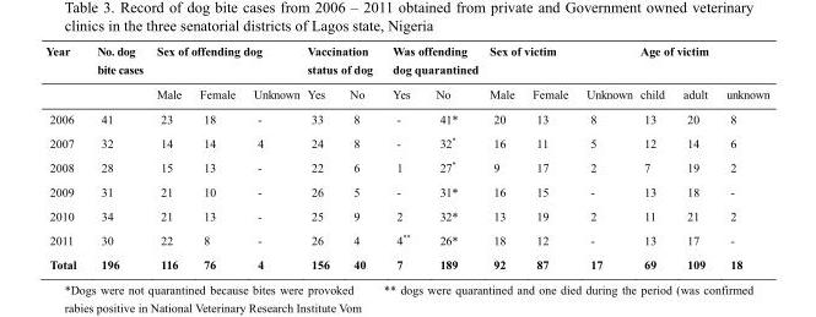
<table><thead><tr><td rowspan="2">Year</td><td rowspan="2">No. dog bite cases</td><td colspan="3">Sex of offending dog</td><td colspan="2">Vaccination status of dog</td><td colspan="2">Was offending dog quarantined</td><td colspan="3">Sex of victim</td><td colspan="3">Age of victim</td></tr><tr><td>Male</td><td>Female</td><td>Unknown</td><td>Yes</td><td>No</td><td>Yes</td><td>No</td><td>Male</td><td>Female</td><td>Unknown</td><td>child</td><td>adult</td><td>unknown</td></tr></thead><tbody><tr><td>2006</td><td>41</td><td>23</td><td>18</td><td>-</td><td>33</td><td>8</td><td>-</td><td>41*</td><td>20</td><td>13</td><td>8</td><td>13</td><td>20</td><td>8</td></tr><tr><td>2007</td><td>32</td><td>14</td><td>14</td><td>4</td><td>24</td><td>8</td><td>-</td><td>32*</td><td>16</td><td>11</td><td>5</td><td>12</td><td>14</td><td>6</td></tr><tr><td>2008</td><td>28</td><td>15</td><td>13</td><td>-</td><td>22</td><td>6</td><td>1</td><td>27*</td><td>9</td><td>17</td><td>2</td><td>7</td><td>19</td><td>2</td></tr><tr><td>2009</td><td>31</td><td>21</td><td>10</td><td>-</td><td>26</td><td>5</td><td>-</td><td>31*</td><td>16</td><td>15</td><td>-</td><td>13</td><td>18</td><td>-</td></tr><tr><td>2010</td><td>34</td><td>21</td><td>13</td><td>-</td><td>25</td><td>9</td><td>2</td><td>32*</td><td>13</td><td>19</td><td>2</td><td>11</td><td>21</td><td>2</td></tr><tr><td>2011</td><td>30</td><td>22</td><td>8</td><td>-</td><td>26</td><td>4</td><td>4**</td><td>26*</td><td>18</td><td>12</td><td>-</td><td>13</td><td>17</td><td>-</td></tr><tr><td>Total</td><td>196</td><td>116</td><td>76</td><td>4</td><td>156</td><td>40</td><td>7</td><td>189</td><td>92</td><td>87</td><td>17</td><td>69</td><td>109</td><td>18</td></tr></tbody></table>